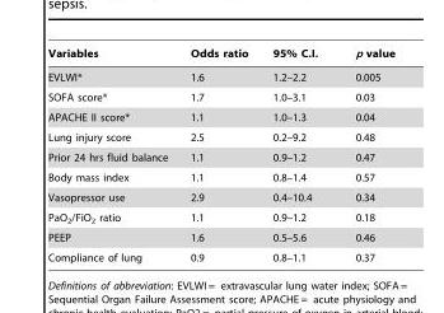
<table><thead><tr><td>Variables</td><td>Odds ratio</td><td>95% C.I.</td><td>p value</td></tr></thead><tbody><tr><td>EVLWI*</td><td>1.6</td><td>1.2–2.2</td><td>0.005</td></tr><tr><td>SOFA score*</td><td>1.7</td><td>1.0–3.1</td><td>0.03</td></tr><tr><td>APACHE II score*</td><td>1.1</td><td>1.0–1.3</td><td>0.04</td></tr><tr><td>Lung injury score</td><td>2.5</td><td>0.2–9.2</td><td>0.48</td></tr><tr><td>Prior 24 hrs fluid balance</td><td>1.1</td><td>0.9–1.2</td><td>0.47</td></tr><tr><td>Body mass index</td><td>1.1</td><td>0.8–1.4</td><td>0.57</td></tr><tr><td>Vasopressor use</td><td>2.9</td><td>0.4–10.4</td><td>0.34</td></tr><tr><td>PaO<sub>2</sub>/FiO<sub>2</sub> ratio</td><td>1.1</td><td>0.9–1.2</td><td>0.18</td></tr><tr><td>PEEP</td><td>1.6</td><td>0.5–5.6</td><td>0.46</td></tr><tr><td>Compliance of lung</td><td>0.9</td><td>0.8–1.1</td><td>0.37</td></tr></tbody></table>